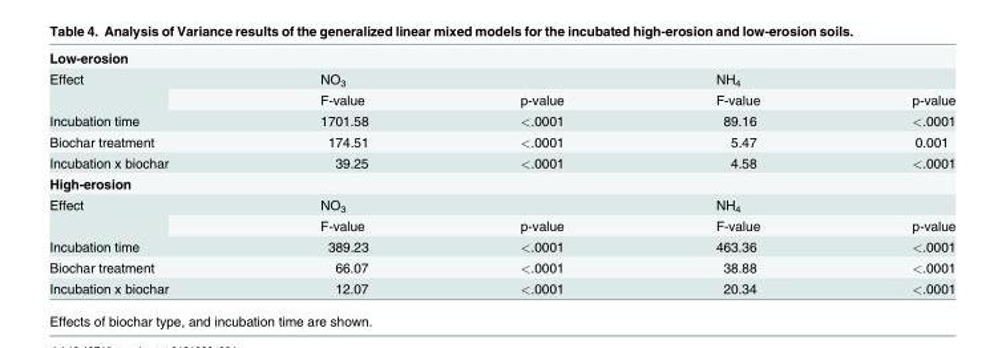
<table><tbody><tr><td colspan="5">Low-erosion</td></tr><tr><td rowspan="2">Effect</td><td colspan="2">NO<sub>3</sub></td><td colspan="2">NH<sub>4</sub></td></tr><tr><td>F-value</td><td>p-value</td><td>F-value</td><td>p-value</td></tr><tr><td>Incubation time</td><td>1701.58</td><td>&lt;.0001</td><td>89.16</td><td>&lt;.0001</td></tr><tr><td>Biochar treatment</td><td>174.51</td><td>&lt;.0001</td><td>5.47</td><td>0.001</td></tr><tr><td>Incubation x biochar</td><td>39.25</td><td>&lt;.0001</td><td>4.58</td><td>&lt;.0001</td></tr><tr><td colspan="5">High-erosion</td></tr><tr><td rowspan="2">Effect</td><td colspan="2">NO<sub>3</sub></td><td colspan="2">NH<sub>4</sub></td></tr><tr><td>F-value</td><td>p-value</td><td>F-value</td><td>p-value</td></tr><tr><td>Incubation time</td><td>389.23</td><td>&lt;.0001</td><td>463.36</td><td>&lt;.0001</td></tr><tr><td>Biochar treatment</td><td>66.07</td><td>&lt;.0001</td><td>38.88</td><td>&lt;.0001</td></tr><tr><td>Incubation x biochar</td><td>12.07</td><td>&lt;.0001</td><td>20.34</td><td>&lt;.0001</td></tr></tbody></table>